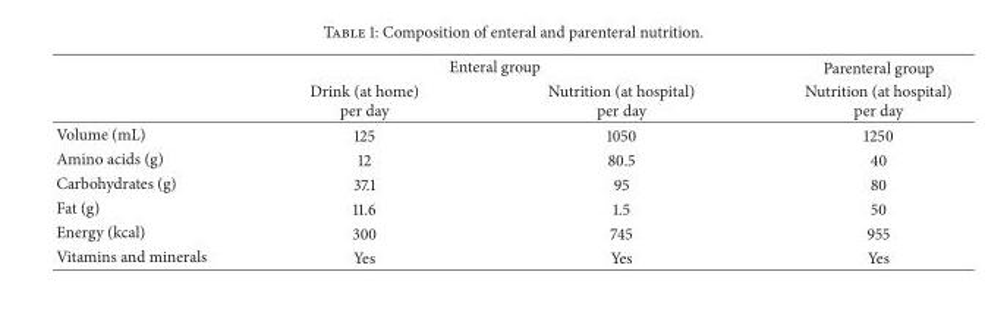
<table><thead><tr><td rowspan="2"></td><td colspan="2">Enteral group</td><td rowspan="2">Parenteral group Nutrition (at hospital) per day</td></tr><tr><td>Drink (at home) per day</td><td>Nutrition (at hospital) per day</td></tr></thead><tbody><tr><td>Volume (mL)</td><td>125</td><td>1050</td><td>1250</td></tr><tr><td>Amino acids (g)</td><td>12</td><td>80.5</td><td>40</td></tr><tr><td>Carbohydrates (g)</td><td>37.1</td><td>95</td><td>80</td></tr><tr><td>Fat (g)</td><td>11.6</td><td>1.5</td><td>50</td></tr><tr><td>Energy (kcal)</td><td>300</td><td>745</td><td>955</td></tr><tr><td>Vitamins and minerals</td><td>Yes</td><td>Yes</td><td>Yes</td></tr></tbody></table>